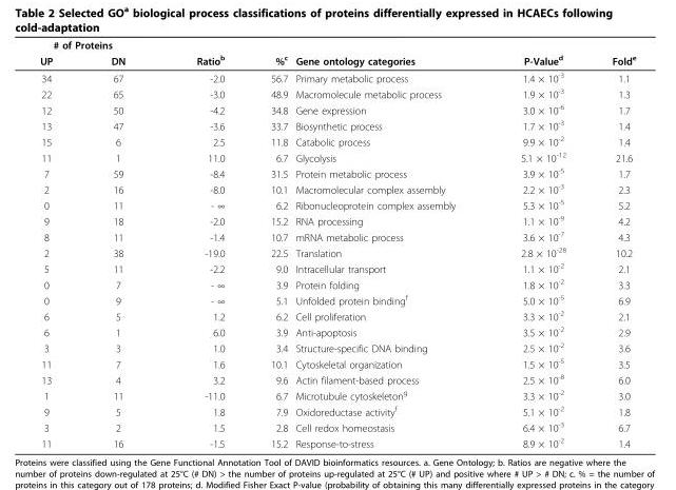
<table><thead><tr><td colspan="2"># of Proteins</td><td rowspan="2">Ratio<sup>b</sup></td><td rowspan="2">%<sup>c</sup></td><td rowspan="2">Gene ontology categories</td><td rowspan="2">P-Value<sup>d</sup></td><td rowspan="2">Fold<sup>e</sup></td></tr><tr><td>UP</td><td>DN</td></tr></thead><tbody><tr><td>34</td><td>67</td><td>-2.0</td><td>56.7</td><td>Primary metabolic process</td><td>1.4 × 10<sup>-3</sup></td><td>1.1</td></tr><tr><td>22</td><td>65</td><td>-3.0</td><td>48.9</td><td>Macromolecule metabolic process</td><td>1.9 × 10<sup>-3</sup></td><td>1.3</td></tr><tr><td>12</td><td>50</td><td>-4.2</td><td>34.8</td><td>Gene expression</td><td>3.0 × 10<sup>-6</sup></td><td>1.7</td></tr><tr><td>13</td><td>47</td><td>-3.6</td><td>33.7</td><td>Biosynthetic process</td><td>1.7 × 10<sup>-3</sup></td><td>1.4</td></tr><tr><td>15</td><td>6</td><td>2.5</td><td>11.8</td><td>Catabolic process</td><td>9.9 × 10<sup>-2</sup></td><td>1.4</td></tr><tr><td>11</td><td>1</td><td>11.0</td><td>6.7</td><td>Glycolysis</td><td>5.1 × 10<sup>-12</sup></td><td>21.6</td></tr><tr><td>7</td><td>59</td><td>-8.4</td><td>31.5</td><td>Protein metabolic process</td><td>3.9 × 10<sup>-5</sup></td><td>1.7</td></tr><tr><td>2</td><td>16</td><td>-8.0</td><td>10.1</td><td>Macromolecular complex assembly</td><td>2.2 × 10<sup>-3</sup></td><td>2.3</td></tr><tr><td>0</td><td>11</td><td>- ∞</td><td>6.2</td><td>Ribonucleoprotein complex assembly</td><td>5.3 × 10<sup>-5</sup></td><td>5.2</td></tr><tr><td>9</td><td>18</td><td>-2.0</td><td>15.2</td><td>RNA processing</td><td>1.1 × 10<sup>-9</sup></td><td>4.2</td></tr><tr><td>8</td><td>11</td><td>-1.4</td><td>10.7</td><td>mRNA metabolic process</td><td>3.6 × 10<sup>-7</sup></td><td>4.3</td></tr><tr><td>2</td><td>38</td><td>-19.0</td><td>22.5</td><td>Translation</td><td>2.8 × 10<sup>-28</sup></td><td>10.2</td></tr><tr><td>5</td><td>11</td><td>-2.2</td><td>9.0</td><td>Intracellular transport</td><td>1.1 × 10<sup>-2</sup></td><td>2.1</td></tr><tr><td>0</td><td>7</td><td>- ∞</td><td>3.9</td><td>Protein folding</td><td>1.8 × 10<sup>-2</sup></td><td>3.3</td></tr><tr><td>0</td><td>9</td><td>- ∞</td><td>5.1</td><td>Unfolded protein binding<sup>f</sup></td><td>5.0 × 10<sup>-5</sup></td><td>6.9</td></tr><tr><td>6</td><td>5</td><td>1.2</td><td>6.2</td><td>Cell proliferation</td><td>3.3 × 10<sup>-2</sup></td><td>2.1</td></tr><tr><td>6</td><td>1</td><td>6.0</td><td>3.9</td><td>Anti-apoptosis</td><td>3.5 × 10<sup>-2</sup></td><td>2.9</td></tr><tr><td>3</td><td>3</td><td>1.0</td><td>3.4</td><td>Structure-specific DNA binding</td><td>2.5 × 10<sup>-2</sup></td><td>3.6</td></tr><tr><td>11</td><td>7</td><td>1.6</td><td>10.1</td><td>Cytoskeletal organization</td><td>1.5 × 10<sup>-5</sup></td><td>3.5</td></tr><tr><td>13</td><td>4</td><td>3.2</td><td>9.6</td><td>Actin filament-based process</td><td>2.5 × 10<sup>-8</sup></td><td>6.0</td></tr><tr><td>1</td><td>11</td><td>-11.0</td><td>6.7</td><td>Microtubule cytoskeleton<sup>g</sup></td><td>3.3 × 10<sup>-2</sup></td><td>3.0</td></tr><tr><td>9</td><td>5</td><td>1.8</td><td>7.9</td><td>Oxidoreductase activity<sup>f</sup></td><td>5.1 × 10<sup>-2</sup></td><td>1.8</td></tr><tr><td>3</td><td>2</td><td>1.5</td><td>2.8</td><td>Cell redox homeostasis</td><td>6.4 × 10<sup>-3</sup></td><td>6.7</td></tr><tr><td>11</td><td>16</td><td>-1.5</td><td>15.2</td><td>Response-to-stress</td><td>8.9 × 10<sup>-2</sup></td><td>1.4</td></tr></tbody></table>